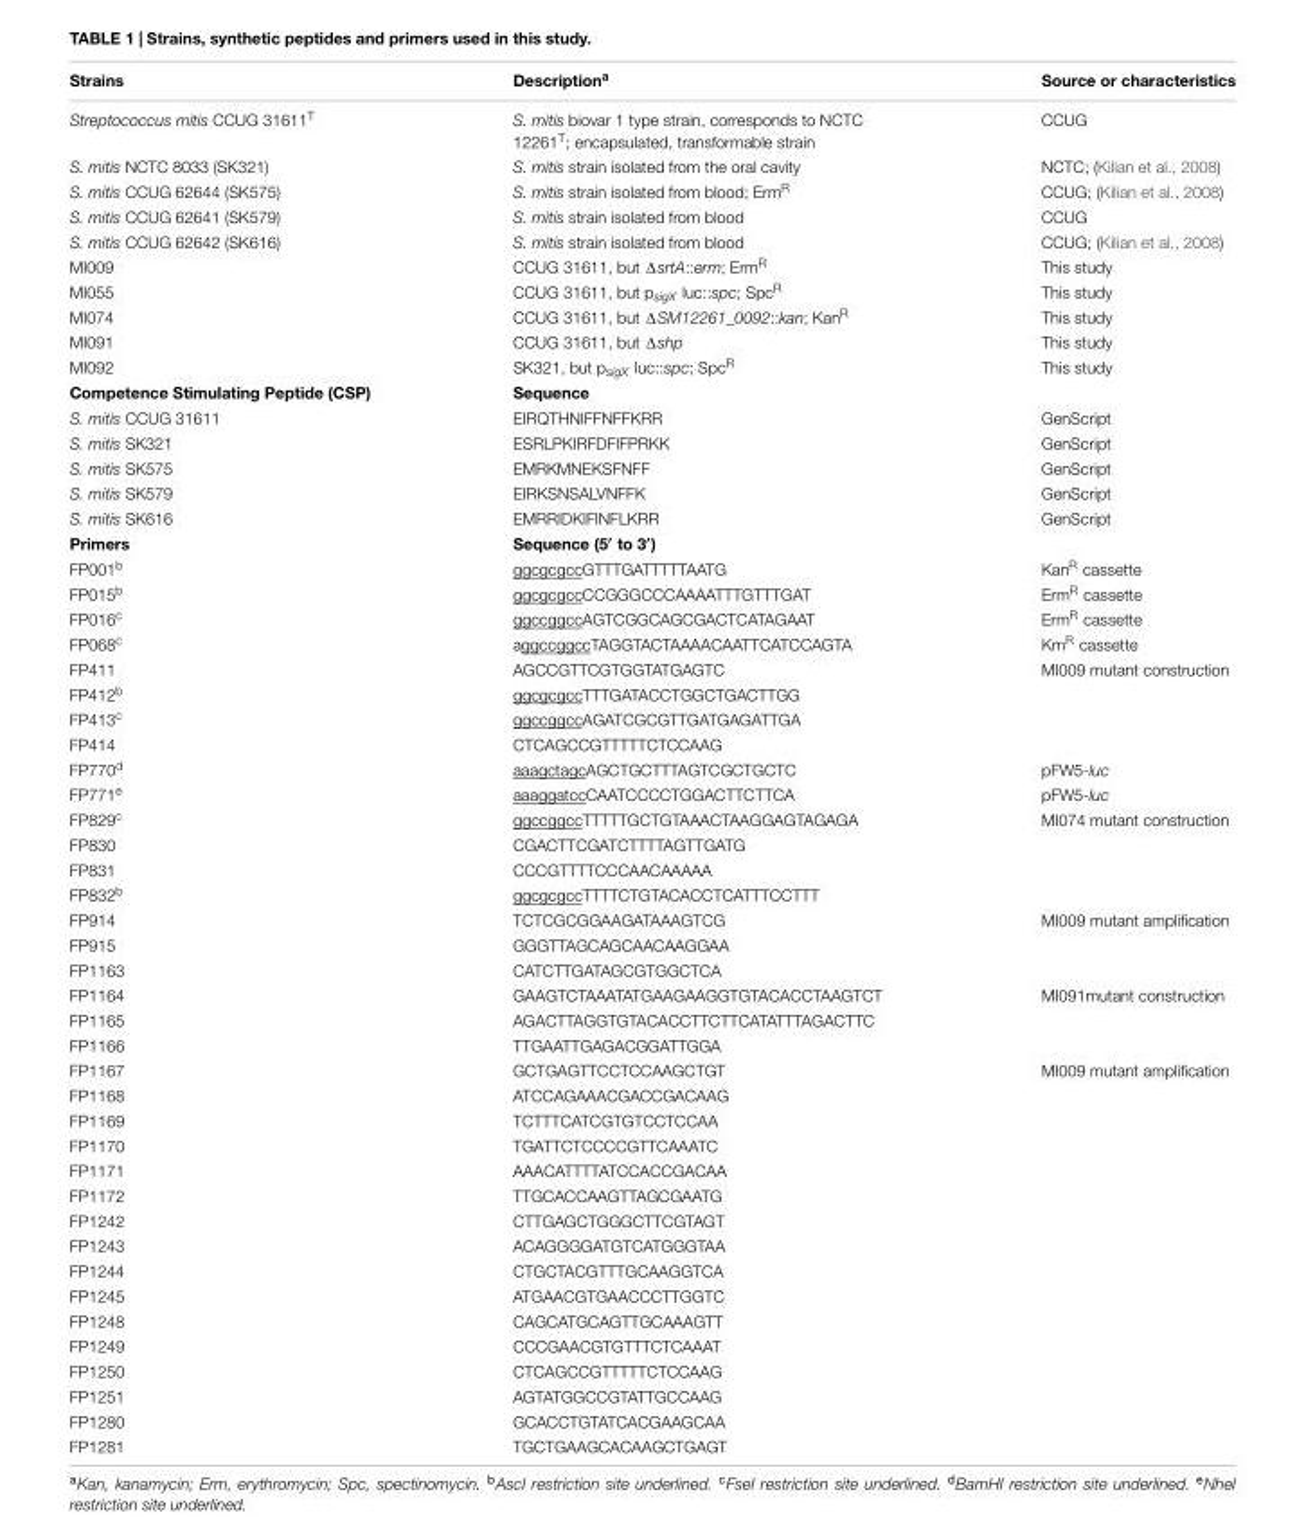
<table><thead><tr><td>Strains</td><td>Description<sup>a</sup></td><td>Source or characteristics</td></tr></thead><tbody><tr><td>Streptococcus mitis CCUG 31611<sup>T</sup></td><td>S. mitis biovar 1 type strain, corresponds to NCTC 12261<sup>T</sup>; encapsulated, transformable strain</td><td>CCUG</td></tr><tr><td>S. mitis NCTC 8033 (SK321)</td><td>S. mitis strain isolated from the oral cavity</td><td>NCTC; (Kilian et al., 2008)</td></tr><tr><td>S. mitis CCUG 62644 (SK575)</td><td>S. mitis strain isolated from blood; Erm<sup>R</sup></td><td>CCUG; (Kilian et al., 2008)</td></tr><tr><td>S. mitis CCUG 62641 (SK579)</td><td>S. mitis strain isolated from blood</td><td>CCUG</td></tr><tr><td>S. mitis CCUG 62642 (SK616)</td><td>S. mitis strain isolated from blood</td><td>CCUG; (Kilian et al., 2008)</td></tr><tr><td>MI009</td><td>CCUG 31611, but ΔsrtA::erm; Erm<sup>R</sup></td><td>This study</td></tr><tr><td>MI055</td><td>CCUG 31611, but p<sub>sigX</sub> luc::spc; Spc<sup>R</sup></td><td>This study</td></tr><tr><td>MI074</td><td>CCUG 31611, but ΔSM12261_0092::kan; Kan<sup>R</sup></td><td>This study</td></tr><tr><td>MI091</td><td>CCUG 31611, but Δshp</td><td>This study</td></tr><tr><td>MI092</td><td>SK321, but p<sub>sigX</sub> luc::spc; Spc<sup>R</sup></td><td>This study</td></tr><tr><td>Competence Stimulating Peptide (CSP)</td><td>Sequence</td><td></td></tr><tr><td>S. mitis CCUG 31611</td><td>EIRQTHNIFFNFFKRR</td><td>GenScript</td></tr><tr><td>S. mitis SK321</td><td>ESRLPKIRFDFIFPRKK</td><td>GenScript</td></tr><tr><td>S. mitis SK575</td><td>EMRKMNEKSFNFF</td><td>GenScript</td></tr><tr><td>S. mitis SK579</td><td>EIRKSNSALVNFFK</td><td>GenScript</td></tr><tr><td>S. mitis SK616</td><td>EMRRIDKIFINFLKRR</td><td>GenScript</td></tr><tr><td>Primers</td><td>Sequence (5′ to 3′)</td><td></td></tr><tr><td>FP001<sup>b</sup></td><td>ggcgcgccGTTTGATTTTTAATG</td><td>Kan<sup>R</sup> cassette</td></tr><tr><td>FP015<sup>b</sup></td><td>ggcgcgccCCGGGCCCAAAATTTGTTTGAT</td><td>Erm<sup>R</sup> cassette</td></tr><tr><td>FP016<sup>c</sup></td><td>ggccggccAGTCGGCAGCGACTCATAGAAT</td><td>Erm<sup>R</sup> cassette</td></tr><tr><td>FP068<sup>c</sup></td><td>aggccggccTAGGTACTAAAACAATTCATCCAGTA</td><td>Km<sup>R</sup> cassette</td></tr><tr><td>FP411</td><td>AGCCGTTCGTGGTATGAGTC</td><td>MI009 mutant construction</td></tr><tr><td>FP412<sup>b</sup></td><td>ggcgcgccTTTGATACCTGGCTGACTTGG</td><td></td></tr><tr><td>FP413<sup>c</sup></td><td>ggccggccAGATCGCGTTGATGAGATTGA</td><td></td></tr><tr><td>FP414</td><td>CTCAGCCGTTTTTCTCCAAG</td><td></td></tr><tr><td>FP770<sup>d</sup></td><td>aaagctagcAGCTGCTTTAGTCGCTGCTC</td><td>pFW5-luc</td></tr><tr><td>FP771<sup>e</sup></td><td>aaaggatccCAATCCCCTGGACTTCTTCA</td><td>pFW5-luc</td></tr><tr><td>FP829<sup>c</sup></td><td>ggccggccTTTTTGCTGTAAACTAAGGAGTAGAGA</td><td>MI074 mutant construction</td></tr><tr><td>FP830</td><td>CGACTTCGATCTTTTAGTTGATG</td><td></td></tr><tr><td>FP831</td><td>CCCGTTTTCCCAACAAAAA</td><td></td></tr><tr><td>FP832<sup>b</sup></td><td>ggcgcgccTTTTCTGTACACCTCATTTCCTTT</td><td></td></tr><tr><td>FP914</td><td>TCTCGCGGAAGATAAAGTCG</td><td>MI009 mutant amplification</td></tr><tr><td>FP915</td><td>GGGTTAGCAGCAACAAGGAA</td><td></td></tr><tr><td>FP1163</td><td>CATCTTGATAGCGTGGCTCA</td><td></td></tr><tr><td>FP1164</td><td>GAAGTCTAAATATGAAGAAGGTGTACACCTAAGTCT</td><td>MI091mutant construction</td></tr><tr><td>FP1165</td><td>AGACTTAGGTGTACACCTTCTTCATATTTAGACTTC</td><td></td></tr><tr><td>FP1166</td><td>TTGAATTGAGACGGATTGGA</td><td></td></tr><tr><td>FP1167</td><td>GCTGAGTTCCTCCAAGCTGT</td><td>MI009 mutant amplification</td></tr><tr><td>FP1168</td><td>ATCCAGAAACGACCGACAAG</td><td></td></tr><tr><td>FP1169</td><td>TCTTTCATCGTGTCCTCCAA</td><td></td></tr><tr><td>FP1170</td><td>TGATTCTCCCCGTTCAAATC</td><td></td></tr><tr><td>FP1171</td><td>AAACATTTTATCCACCGACAA</td><td></td></tr><tr><td>FP1172</td><td>TTGCACCAAGTTAGCGAATG</td><td></td></tr><tr><td>FP1242</td><td>CTTGAGCTGGGCTTCGTAGT</td><td></td></tr><tr><td>FP1243</td><td>ACAGGGGATGTCATGGGTAA</td><td></td></tr><tr><td>FP1244</td><td>CTGCTACGTTTGCAAGGTCA</td><td></td></tr><tr><td>FP1245</td><td>ATGAACGTGAACCCTTGGTC</td><td></td></tr><tr><td>FP1248</td><td>CAGCATGCAGTTGCAAAGTT</td><td></td></tr><tr><td>FP1249</td><td>CCCGAACGTGTTTCTCAAAT</td><td></td></tr><tr><td>FP1250</td><td>CTCAGCCGTTTTTCTCCAAG</td><td></td></tr><tr><td>FP1251</td><td>AGTATGGCCGTATTGCCAAG</td><td></td></tr><tr><td>FP1280</td><td>GCACCTGTATCACGAAGCAA</td><td></td></tr><tr><td>FP1281</td><td>TGCTGAAGCACAAGCTGAGT</td><td></td></tr></tbody></table>